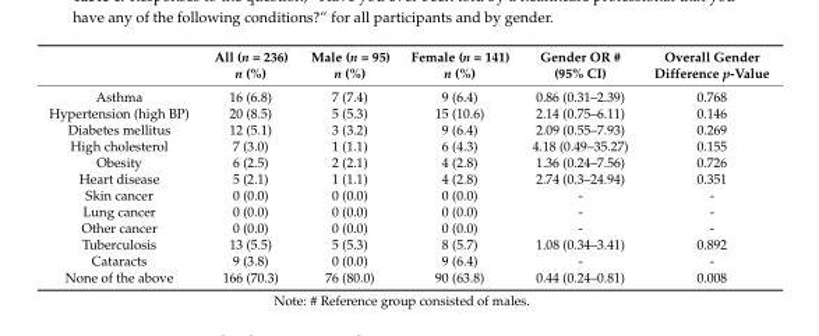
<table><thead><tr><td></td><td>All (n = 236) n (%)</td><td>Male (n = 95) n (%)</td><td>Female (n = 141) n (%)</td><td>Gender OR # (95% CI)</td><td>Overall Gender Difference p-Value</td></tr></thead><tbody><tr><td>Asthma</td><td>16 (6.8)</td><td>7 (7.4)</td><td>9 (6.4)</td><td>0.86 (0.31–2.39)</td><td>0.768</td></tr><tr><td>Hypertension (high BP)</td><td>20 (8.5)</td><td>5 (5.3)</td><td>15 (10.6)</td><td>2.14 (0.75–6.11)</td><td>0.146</td></tr><tr><td>Diabetes mellitus</td><td>12 (5.1)</td><td>3 (3.2)</td><td>9 (6.4)</td><td>2.09 (0.55–7.93)</td><td>0.269</td></tr><tr><td>High cholesterol</td><td>7 (3.0)</td><td>1 (1.1)</td><td>6 (4.3)</td><td>4.18 (0.49–35.27)</td><td>0.155</td></tr><tr><td>Obesity</td><td>6 (2.5)</td><td>2 (2.1)</td><td>4 (2.8)</td><td>1.36 (0.24–7.56)</td><td>0.726</td></tr><tr><td>Heart disease</td><td>5 (2.1)</td><td>1 (1.1)</td><td>4 (2.8)</td><td>2.74 (0.3–24.94)</td><td>0.351</td></tr><tr><td>Skin cancer</td><td>0 (0.0)</td><td>0 (0.0)</td><td>0 (0.0)</td><td>-</td><td>-</td></tr><tr><td>Lung cancer</td><td>0 (0.0)</td><td>0 (0.0)</td><td>0 (0.0)</td><td>-</td><td>-</td></tr><tr><td>Other cancer</td><td>0 (0.0)</td><td>0 (0.0)</td><td>0 (0.0)</td><td>-</td><td>-</td></tr><tr><td>Tuberculosis</td><td>13 (5.5)</td><td>5 (5.3)</td><td>8 (5.7)</td><td>1.08 (0.34–3.41)</td><td>0.892</td></tr><tr><td>Cataracts</td><td>9 (3.8)</td><td>0 (0.0)</td><td>9 (6.4)</td><td>-</td><td>-</td></tr><tr><td>None of the above</td><td>166 (70.3)</td><td>76 (80.0)</td><td>90 (63.8)</td><td>0.44 (0.24–0.81)</td><td>0.008</td></tr></tbody></table>